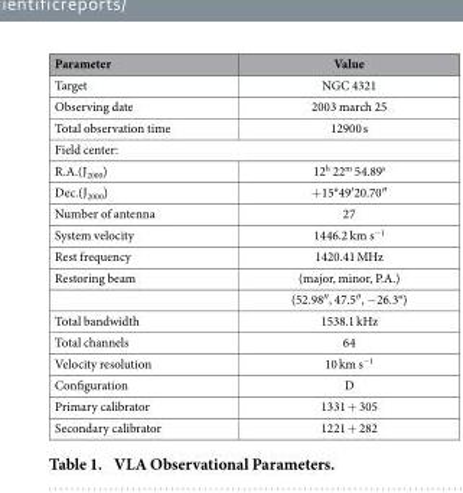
<table><thead><tr><td>Parameter</td><td>Value</td></tr></thead><tbody><tr><td>Target</td><td>NGC 4321</td></tr><tr><td>Observing date</td><td>2003 march 25</td></tr><tr><td>Total observation time</td><td>12900 s</td></tr><tr><td colspan="2">Field center:</td></tr><tr><td>R.A.(J<sub>2000</sub>)</td><td>12<sup>h</sup> 22<sup>m</sup> 54.89<sup>s</sup></td></tr><tr><td>Dec.(J<sub>2000</sub>)</td><td>+15°49′20.70″</td></tr><tr><td>Number of antenna</td><td>27</td></tr><tr><td>System velocity</td><td>1446.2 km s<sup>−1</sup></td></tr><tr><td>Rest frequency</td><td>1420.41 MHz</td></tr><tr><td rowspan="2">Restoring beam</td><td>(major, minor, P.A.)</td></tr><tr><td>(52.98″, 47.5″, −26.3°)</td></tr><tr><td>Total bandwidth</td><td>1538.1 kHz</td></tr><tr><td>Total channels</td><td>64</td></tr><tr><td>Velocity resolution</td><td>10 km s<sup>−1</sup></td></tr><tr><td>Configuration</td><td>D</td></tr><tr><td>Primary calibrator</td><td>1331 + 305</td></tr><tr><td>Secondary calibrator</td><td>1221 + 282</td></tr></tbody></table>